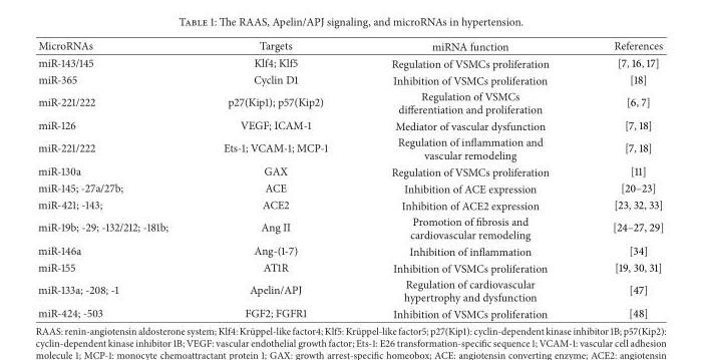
<table><thead><tr><td>MicroRNAs</td><td>Targets</td><td>miRNA function</td><td>References</td></tr></thead><tbody><tr><td>miR-143/145</td><td>Klf4; Klf5</td><td>Regulation of VSMCs proliferation</td><td>[7, 16, 17]</td></tr><tr><td>miR-365</td><td>Cyclin D1</td><td>Inhibition of VSMCs proliferation</td><td>[18]</td></tr><tr><td>miR-221/222</td><td>p27(Kip1); p57(Kip2)</td><td>Regulation of VSMCs differentiation and proliferation</td><td>[6, 7]</td></tr><tr><td>miR-126</td><td>VEGF; ICAM-1</td><td>Mediator of vascular dysfunction</td><td>[7, 18]</td></tr><tr><td>miR-221/222</td><td>Ets-1; VCAM-1; MCP-1</td><td>Regulation of inflammation and vascular remodeling</td><td>[7, 18]</td></tr><tr><td>miR-130a</td><td>GAX</td><td>Regulation of VSMCs proliferation</td><td>[11]</td></tr><tr><td>miR-145; -27a/27b;</td><td>ACE</td><td>Inhibition of ACE expression</td><td>[20–23]</td></tr><tr><td>miR-421; -143;</td><td>ACE2</td><td>Inhibition of ACE2 expression</td><td>[23, 32, 33]</td></tr><tr><td>miR-19b; -29; -132/212; -181b;</td><td>Ang II</td><td>Promotion of fibrosis and cardiovascular remodeling</td><td>[24–27, 29]</td></tr><tr><td>miR-146a</td><td>Ang-(1-7)</td><td>Inhibition of inflammation</td><td>[34]</td></tr><tr><td>miR-155</td><td>AT1R</td><td>Inhibition of VSMCs proliferation</td><td>[19, 30, 31]</td></tr><tr><td>miR-133a; -208; -1</td><td>Apelin/APJ</td><td>Regulation of cardiovascular hypertrophy and dysfunction</td><td>[47]</td></tr><tr><td>miR-424; -503</td><td>FGF2; FGFR1</td><td>Inhibition of VSMCs proliferation</td><td>[48]</td></tr></tbody></table>